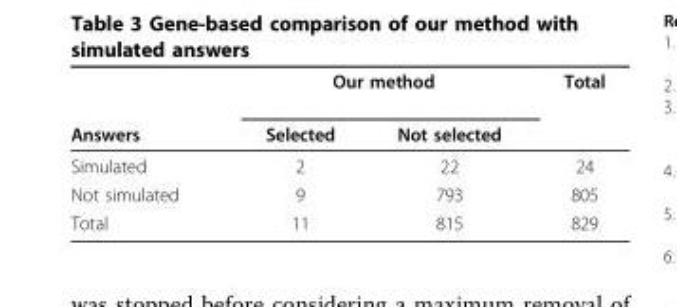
<table><thead><tr><td rowspan="2">Answers</td><td colspan="2">Our method</td><td rowspan="2">Total</td></tr><tr><td>Selected</td><td>Not selected</td></tr></thead><tbody><tr><td>Simulated</td><td>2</td><td>22</td><td>24</td></tr><tr><td>Not simulated</td><td>9</td><td>793</td><td>805</td></tr><tr><td>Total</td><td>11</td><td>815</td><td>829</td></tr></tbody></table>